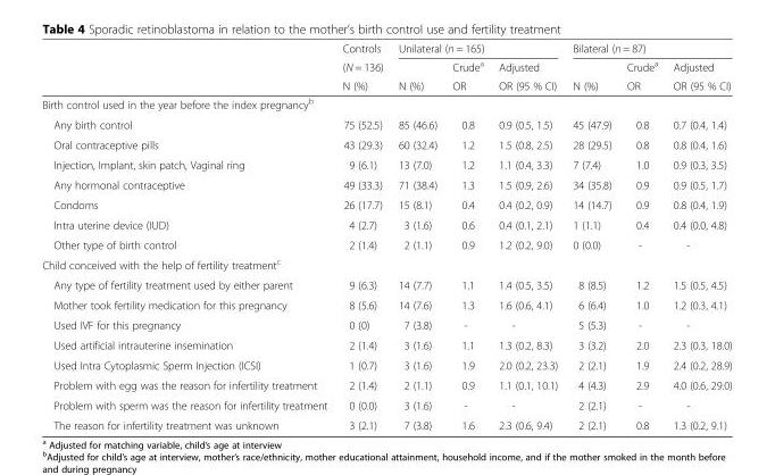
<table><thead><tr><td rowspan="3"></td><td rowspan="3">Controls (N = 136) N (%)</td><td colspan="3">Unilateral (n = 165)</td><td colspan="3">Bilateral (n = 87)</td></tr><tr><td rowspan="2">N (%)</td><td rowspan="2">Crude<sup>a</sup> OR</td><td rowspan="2">Adjusted OR (95 % CI)</td><td rowspan="2">N (%)</td><td rowspan="2">Crude<sup>a</sup> OR</td><td rowspan="2">Adjusted OR (95 % CI)</td></tr><tr></tr></thead><tbody><tr><td colspan="8">Birth control used in the year before the index pregnancy<sup>b</sup></td></tr><tr><td>Any birth control</td><td>75 (52.5)</td><td>85 (46.6)</td><td>0.8</td><td>0.9 (0.5, 1.5)</td><td>45 (47.9)</td><td>0.8</td><td>0.7 (0.4, 1.4)</td></tr><tr><td>Oral contraceptive pills</td><td>43 (29.3)</td><td>60 (32.4)</td><td>1.2</td><td>1.5 (0.8, 2.5)</td><td>28 (29.5)</td><td>0.8</td><td>0.8 (0.4, 1.6)</td></tr><tr><td>Injection, Implant, skin patch, Vaginal ring</td><td>9 (6.1)</td><td>13 (7.0)</td><td>1.2</td><td>1.1 (0.4, 3.3)</td><td>7 (7.4)</td><td>1.0</td><td>0.9 (0.3, 3.5)</td></tr><tr><td>Any hormonal contraceptive</td><td>49 (33.3)</td><td>71 (38.4)</td><td>1.3</td><td>1.5 (0.9, 2.6)</td><td>34 (35.8)</td><td>0.9</td><td>0.9 (0.5, 1.7)</td></tr><tr><td>Condoms</td><td>26 (17.7)</td><td>15 (8.1)</td><td>0.4</td><td>0.4 (0.2, 0.9)</td><td>14 (14.7)</td><td>0.9</td><td>0.8 (0.4, 1.9)</td></tr><tr><td>Intra uterine device (IUD)</td><td>4 (2.7)</td><td>3 (1.6)</td><td>0.6</td><td>0.4 (0.1, 2.1)</td><td>1 (1.1)</td><td>0.4</td><td>0.4 (0.0, 4.8)</td></tr><tr><td>Other type of birth control</td><td>2 (1.4)</td><td>2 (1.1)</td><td>0.9</td><td>1.2 (0.2, 9.0)</td><td>0 (0.0)</td><td>-</td><td>-</td></tr><tr><td colspan="8">Child conceived with the help of fertility treatment<sup>c</sup></td></tr><tr><td>Any type of fertility treatment used by either parent</td><td>9 (6.3)</td><td>14 (7.7)</td><td>1.1</td><td>1.4 (0.5, 3.5)</td><td>8 (8.5)</td><td>1.2</td><td>1.5 (0.5, 4.5)</td></tr><tr><td>Mother took fertility medication for this pregnancy</td><td>8 (5.6)</td><td>14 (7.6)</td><td>1.3</td><td>1.6 (0.6, 4.1)</td><td>6 (6.4)</td><td>1.0</td><td>1.2 (0.3, 4.1)</td></tr><tr><td>Used IVF for this pregnancy</td><td>0 (0)</td><td>7 (3.8)</td><td>-</td><td>-</td><td>5 (5.3)</td><td>-</td><td>-</td></tr><tr><td>Used artificial intrauterine insemination</td><td>2 (1.4)</td><td>3 (1.6)</td><td>1.1</td><td>1.3 (0.2, 8.3)</td><td>3 (3.2)</td><td>2.0</td><td>2.3 (0.3, 18.0)</td></tr><tr><td>Used Intra Cytoplasmic Sperm Injection (ICSI)</td><td>1 (0.7)</td><td>3 (1.6)</td><td>1.9</td><td>2.0 (0.2, 23.3)</td><td>2 (2.1)</td><td>1.9</td><td>2.4 (0.2, 28.9)</td></tr><tr><td>Problem with egg was the reason for infertility treatment</td><td>2 (1.4)</td><td>2 (1.1)</td><td>0.9</td><td>1.1 (0.1, 10.1)</td><td>4 (4.3)</td><td>2.9</td><td>4.0 (0.6, 29.0)</td></tr><tr><td>Problem with sperm was the reason for infertility treatment</td><td>0 (0.0)</td><td>3 (1.6)</td><td>-</td><td>-</td><td>2 (2.1)</td><td>-</td><td>-</td></tr><tr><td>The reason for infertility treatment was unknown</td><td>3 (2.1)</td><td>7 (3.8)</td><td>1.6</td><td>2.3 (0.6, 9.4)</td><td>2 (2.1)</td><td>0.8</td><td>1.3 (0.2, 9.1)</td></tr></tbody></table>